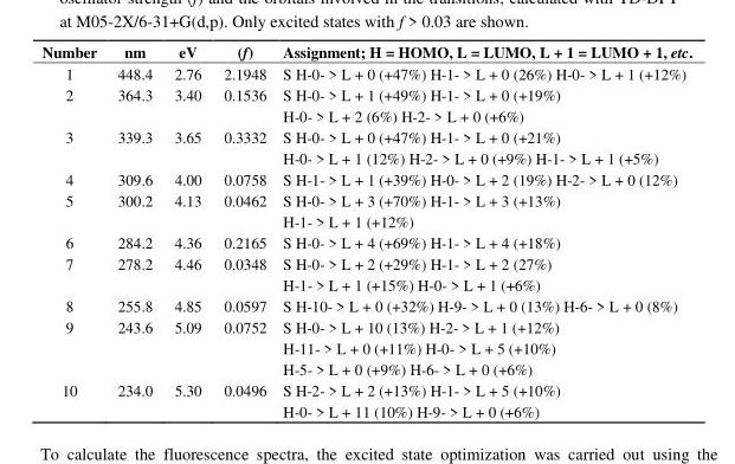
<table><thead><tr><td>Number</td><td>nm</td><td>eV</td><td>(f)</td><td>Assignment; H = HOMO, L = LUMO, L + 1 = LUMO + 1, etc.</td></tr></thead><tbody><tr><td>1</td><td>448.4</td><td>2.76</td><td>2.1948</td><td>S H-0- &gt; L + 0 (+47%) H-1- &gt; L + 0 (26%) H-0- &gt; L + 1 (+12%)</td></tr><tr><td>2</td><td>364.3</td><td>3.40</td><td>0.1536</td><td>S H-0- &gt; L + 1 (+49%) H-1- &gt; L + 0 (+19%) H-0- &gt; L + 2 (6%) H-2- &gt; L + 0 (+6%)</td></tr><tr><td>3</td><td>339.3</td><td>3.65</td><td>0.3332</td><td>S H-0- &gt; L + 0 (+47%) H-1- &gt; L + 0 (+21%) H-0- &gt; L + 1 (12%) H-2- &gt; L + 0 (+9%) H-1- &gt; L + 1 (+5%)</td></tr><tr><td>4</td><td>309.6</td><td>4.00</td><td>0.0758</td><td>S H-1- &gt; L + 1 (+39%) H-0- &gt; L + 2 (19%) H-2- &gt; L + 0 (12%)</td></tr><tr><td>5</td><td>300.2</td><td>4.13</td><td>0.0462</td><td>S H-0- &gt; L + 3 (+70%) H-1- &gt; L + 3 (+13%) H-1- &gt; L + 1 (+12%)</td></tr><tr><td>6</td><td>284.2</td><td>4.36</td><td>0.2165</td><td>S H-0- &gt; L + 4 (+69%) H-1- &gt; L + 4 (+18%)</td></tr><tr><td>7</td><td>278.2</td><td>4.46</td><td>0.0348</td><td>S H-0- &gt; L + 2 (+29%) H-1- &gt; L + 2 (27%) H-1- &gt; L + 1 (+15%) H-0- &gt; L + 1 (+6%)</td></tr><tr><td>8</td><td>255.8</td><td>4.85</td><td>0.0597</td><td>S H-10- &gt; L + 0 (+32%) H-9- &gt; L + 0 (13%) H-6- &gt; L + 0 (8%)</td></tr><tr><td>9</td><td>243.6</td><td>5.09</td><td>0.0752</td><td>S H-0- &gt; L + 10 (13%) H-2- &gt; L + 1 (+12%) H-11- &gt; L + 0 (+11%) H-0- &gt; L + 5 (+10%) H-5- &gt; L + 0 (+9%) H-6- &gt; L + 0 (+6%)</td></tr><tr><td>10</td><td>234.0</td><td>5.30</td><td>0.0496</td><td>S H-2- &gt; L + 2 (+13%) H-1- &gt; L + 5 (+10%) H-0- &gt; L + 11 (10%) H-9- &gt; L + 0 (+6%)</td></tr></tbody></table>